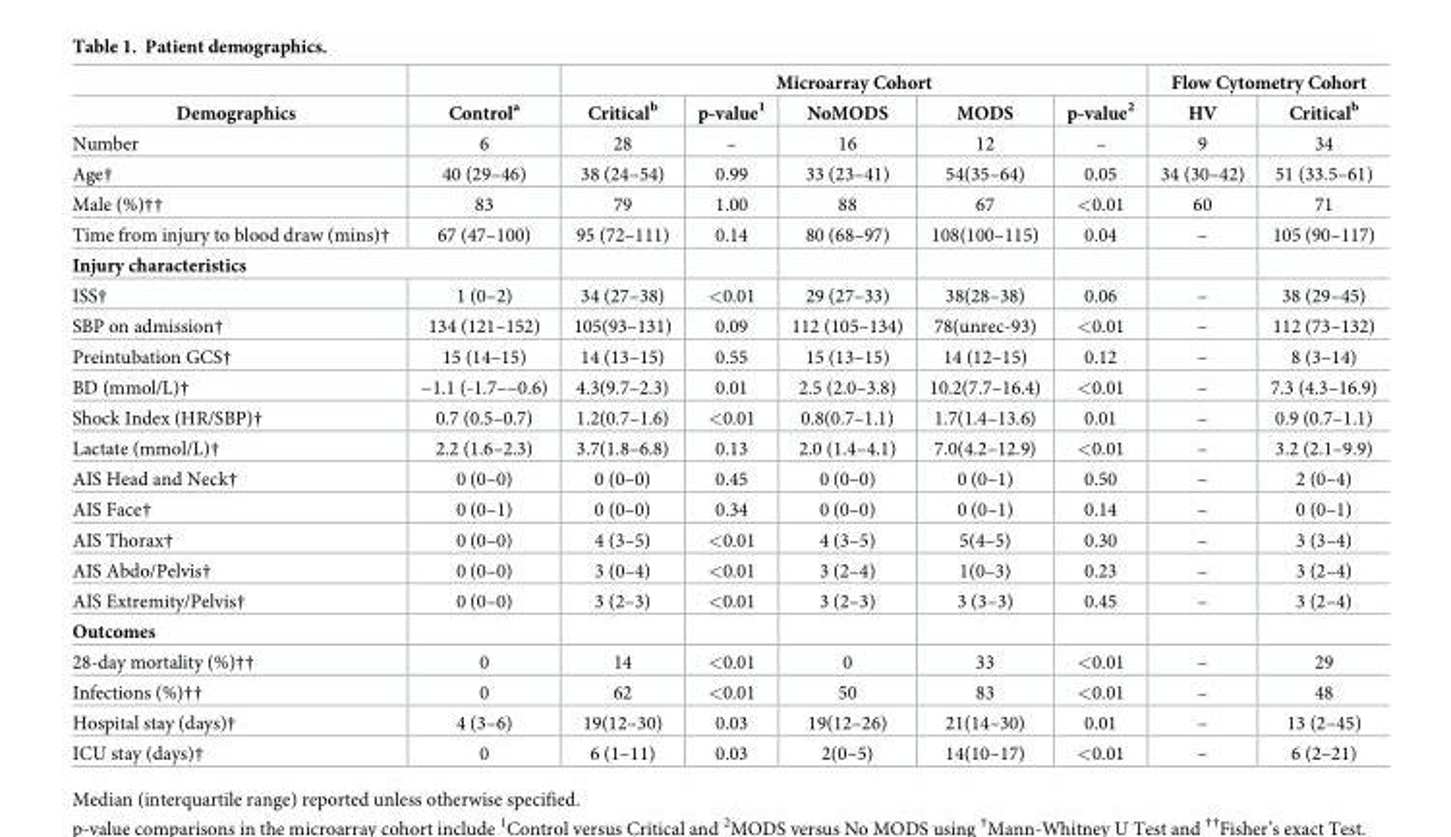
<table><thead><tr><td rowspan="2">Demographics</td><td rowspan="2">Control<sup>a</sup></td><td colspan="5">Microarray Cohort</td><td colspan="2">Flow Cytometry Cohort</td></tr><tr><td>Critical<sup>b</sup></td><td>p-value<sup>1</sup></td><td>NoMODS</td><td>MODS</td><td>p-value<sup>2</sup></td><td>HV</td><td>Critical<sup>b</sup></td></tr></thead><tbody><tr><td>Number</td><td>6</td><td>28</td><td>–</td><td>16</td><td>12</td><td>–</td><td>9</td><td>34</td></tr><tr><td>Age†</td><td>40 (29–46)</td><td>38 (24–54)</td><td>0.99</td><td>33 (23–41)</td><td>54(35–64)</td><td>0.05</td><td>34 (30–42)</td><td>51 (33.5–61)</td></tr><tr><td>Male (%)††</td><td>83</td><td>79</td><td>1.00</td><td>88</td><td>67</td><td>&lt;0.01</td><td>60</td><td>71</td></tr><tr><td>Time from injury to blood draw (mins)†</td><td>67 (47–100)</td><td>95 (72–111)</td><td>0.14</td><td>80 (68–97)</td><td>108(100–115)</td><td>0.04</td><td>–</td><td>105 (90–117)</td></tr><tr><td colspan="9">Injury characteristics</td></tr><tr><td>ISS†</td><td>1 (0–2)</td><td>34 (27–38)</td><td>&lt;0.01</td><td>29 (27–33)</td><td>38(28–38)</td><td>0.06</td><td>–</td><td>38 (29–45)</td></tr><tr><td>SBP on admission†</td><td>134 (121–152)</td><td>105(93–131)</td><td>0.09</td><td>112 (105–134)</td><td>78(unrec-93)</td><td>&lt;0.01</td><td>–</td><td>112 (73–132)</td></tr><tr><td>Preintubation GCS†</td><td>15 (14–15)</td><td>14 (13–15)</td><td>0.55</td><td>15 (13–15)</td><td>14 (12–15)</td><td>0.12</td><td>–</td><td>8 (3–14)</td></tr><tr><td>BD (mmol/L)†</td><td>−1.1 (-1.7–−0.6)</td><td>4.3(9.7–2.3)</td><td>0.01</td><td>2.5 (2.0–3.8)</td><td>10.2(7.7–16.4)</td><td>&lt;0.01</td><td>–</td><td>7.3 (4.3–16.9)</td></tr><tr><td>Shock Index (HR/SBP)†</td><td>0.7 (0.5–0.7)</td><td>1.2(0.7–1.6)</td><td>&lt;0.01</td><td>0.8(0.7–1.1)</td><td>1.7(1.4–13.6)</td><td>0.01</td><td>–</td><td>0.9 (0.7–1.1)</td></tr><tr><td>Lactate (mmol/L)†</td><td>2.2 (1.6–2.3)</td><td>3.7(1.8–6.8)</td><td>0.13</td><td>2.0 (1.4–4.1)</td><td>7.0(4.2–12.9)</td><td>&lt;0.01</td><td>–</td><td>3.2 (2.1–9.9)</td></tr><tr><td>AIS Head and Neck†</td><td>0 (0–0)</td><td>0 (0–0)</td><td>0.45</td><td>0 (0–0)</td><td>0 (0–1)</td><td>0.50</td><td>–</td><td>2 (0–4)</td></tr><tr><td>AIS Face†</td><td>0 (0–1)</td><td>0 (0–0)</td><td>0.34</td><td>0 (0–0)</td><td>0 (0–1)</td><td>0.14</td><td>–</td><td>0 (0–1)</td></tr><tr><td>AIS Thorax†</td><td>0 (0–0)</td><td>4 (3–5)</td><td>&lt;0.01</td><td>4 (3–5)</td><td>5(4–5)</td><td>0.30</td><td>–</td><td>3 (3–4)</td></tr><tr><td>AIS Abdo/Pelvis†</td><td>0 (0–0)</td><td>3 (0–4)</td><td>&lt;0.01</td><td>3 (2–4)</td><td>1(0–3)</td><td>0.23</td><td>–</td><td>3 (2–4)</td></tr><tr><td>AIS Extremity/Pelvis†</td><td>0 (0–0)</td><td>3 (2–3)</td><td>&lt;0.01</td><td>3 (2–3)</td><td>3 (3–3)</td><td>0.45</td><td>–</td><td>3 (2–4)</td></tr><tr><td colspan="9">Outcomes</td></tr><tr><td>28-day mortality (%)††</td><td>0</td><td>14</td><td>&lt;0.01</td><td>0</td><td>33</td><td>&lt;0.01</td><td>–</td><td>29</td></tr><tr><td>Infections (%)††</td><td>0</td><td>62</td><td>&lt;0.01</td><td>50</td><td>83</td><td>&lt;0.01</td><td>–</td><td>48</td></tr><tr><td>Hospital stay (days)†</td><td>4 (3–6)</td><td>19(12–30)</td><td>0.03</td><td>19(12–26)</td><td>21(14–30)</td><td>0.01</td><td>–</td><td>13 (2–45)</td></tr><tr><td>ICU stay (days)†</td><td>0</td><td>6 (1–11)</td><td>0.03</td><td>2(0–5)</td><td>14(10–17)</td><td>&lt;0.01</td><td>–</td><td>6 (2–21)</td></tr></tbody></table>